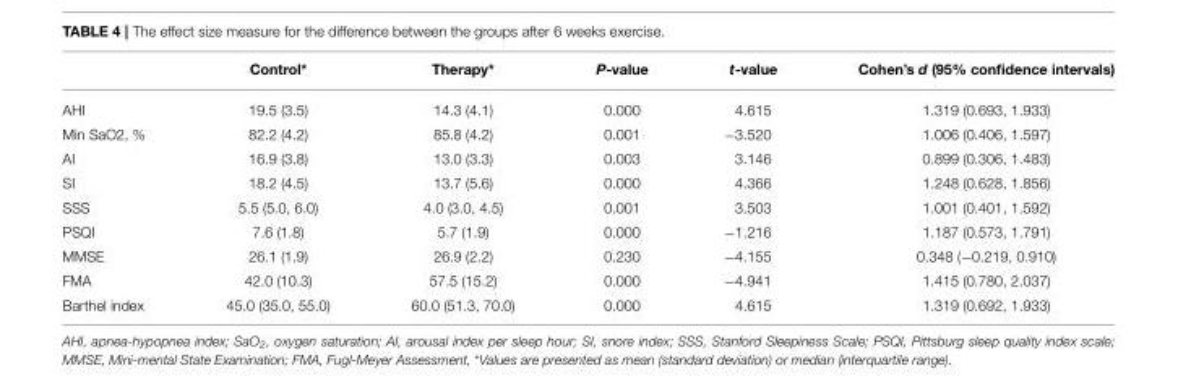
<table><thead><tr><td></td><td>Control*</td><td>Therapy*</td><td>P-value</td><td>t-value</td><td>Cohen’s d (95% confidence intervals)</td></tr></thead><tbody><tr><td>AHI</td><td>19.5 (3.5)</td><td>14.3 (4.1)</td><td>0.000</td><td>4.615</td><td>1.319 (0.693, 1.933)</td></tr><tr><td>Min SaO2, %</td><td>82.2 (4.2)</td><td>85.8 (4.2)</td><td>0.001</td><td>−3.520</td><td>1.006 (0.406, 1.597)</td></tr><tr><td>AI</td><td>16.9 (3.8)</td><td>13.0 (3.3)</td><td>0.003</td><td>3.146</td><td>0.899 (0.306, 1.483)</td></tr><tr><td>SI</td><td>18.2 (4.5)</td><td>13.7 (5.6)</td><td>0.000</td><td>4.366</td><td>1.248 (0.628, 1.856)</td></tr><tr><td>SSS</td><td>5.5 (5.0, 6.0)</td><td>4.0 (3.0, 4.5)</td><td>0.001</td><td>3.503</td><td>1.001 (0.401, 1.592)</td></tr><tr><td>PSQI</td><td>7.6 (1.8)</td><td>5.7 (1.9)</td><td>0.000</td><td>−1.216</td><td>1.187 (0.573, 1.791)</td></tr><tr><td>MMSE</td><td>26.1 (1.9)</td><td>26.9 (2.2)</td><td>0.230</td><td>−4.155</td><td>0.348 (−0.219, 0.910)</td></tr><tr><td>FMA</td><td>42.0 (10.3)</td><td>57.5 (15.2)</td><td>0.000</td><td>−4.941</td><td>1.415 (0.780, 2.037)</td></tr><tr><td>Barthel index</td><td>45.0 (35.0, 55.0)</td><td>60.0 (51.3, 70.0)</td><td>0.000</td><td>4.615</td><td>1.319 (0.692, 1.933)</td></tr></tbody></table>